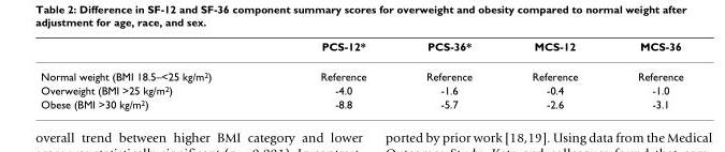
<table><thead><tr><td></td><td>PCS-12*</td><td>PCS-36*</td><td>MCS-12</td><td>MCS-36</td></tr></thead><tbody><tr><td>Normal weight (BMI 18.5–&lt;25 kg/m<sup>2</sup>)</td><td>Reference</td><td>Reference</td><td>Reference</td><td>Reference</td></tr><tr><td>Overweight (BMI &gt;25 kg/m<sup>2</sup>)</td><td>-4.0</td><td>-1.6</td><td>-0.4</td><td>-1.0</td></tr><tr><td>Obese (BMI &gt;30 kg/m<sup>2</sup>)</td><td>-8.8</td><td>-5.7</td><td>-2.6</td><td>-3.1</td></tr></tbody></table>